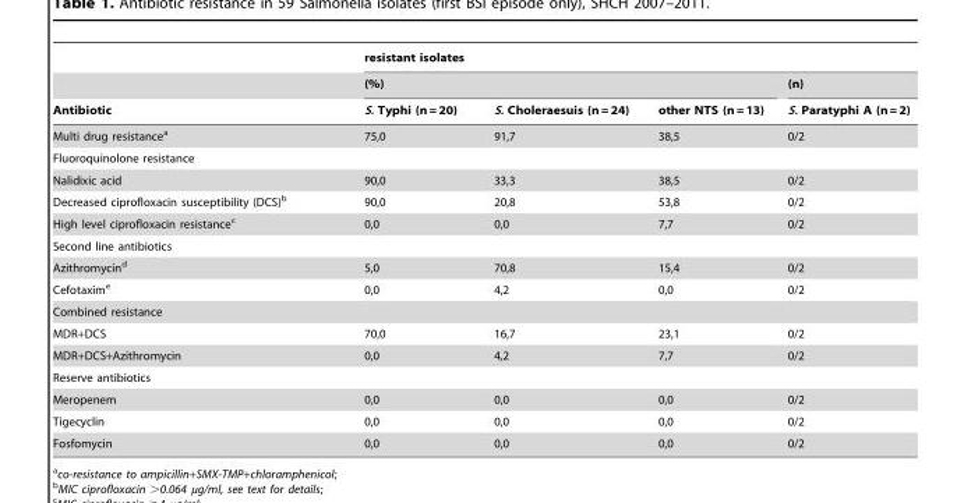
<table><thead><tr><td rowspan="3">Antibiotic</td><td colspan="4">resistant isolates</td></tr><tr><td colspan="3">(%)</td><td rowspan="2">(n) S. Paratyphi A (n = 2)</td></tr><tr><td>S. Typhi (n = 20)</td><td>S. Choleraesuis (n = 24)</td><td>other NTS (n = 13)</td></tr></thead><tbody><tr><td>Multi drug resistance<sup>a</sup></td><td>75,0</td><td>91,7</td><td>38,5</td><td>0/2</td></tr><tr><td colspan="5">Fluoroquinolone resistance</td></tr><tr><td>Nalidixic acid</td><td>90,0</td><td>33,3</td><td>38,5</td><td>0/2</td></tr><tr><td>Decreased ciprofloxacin susceptibility (DCS)<sup>b</sup></td><td>90,0</td><td>20,8</td><td>53,8</td><td>0/2</td></tr><tr><td>High level ciprofloxacin resistance<sup>c</sup></td><td>0,0</td><td>0,0</td><td>7,7</td><td>0/2</td></tr><tr><td colspan="5">Second line antibiotics</td></tr><tr><td>Azithromycin<sup>d</sup></td><td>5,0</td><td>70,8</td><td>15,4</td><td>0/2</td></tr><tr><td>Cefotaxim<sup>e</sup></td><td>0,0</td><td>4,2</td><td>0,0</td><td>0/2</td></tr><tr><td colspan="5">Combined resistance</td></tr><tr><td>MDR+DCS</td><td>70,0</td><td>16,7</td><td>23,1</td><td>0/2</td></tr><tr><td>MDR+DCS+Azithromycin</td><td>0,0</td><td>4,2</td><td>7,7</td><td>0/2</td></tr><tr><td colspan="5">Reserve antibiotics</td></tr><tr><td>Meropenem</td><td>0,0</td><td>0,0</td><td>0,0</td><td>0/2</td></tr><tr><td>Tigecyclin</td><td>0,0</td><td>0,0</td><td>0,0</td><td>0/2</td></tr><tr><td>Fosfomycin</td><td>0,0</td><td>0,0</td><td>0,0</td><td>0/2</td></tr></tbody></table>